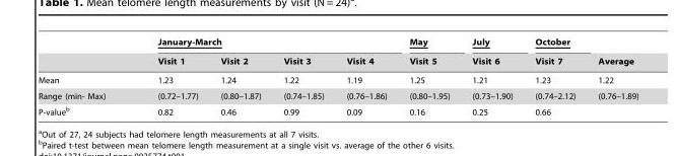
<table><thead><tr><td rowspan="2"></td><td colspan="4">January-March</td><td rowspan="2">May Visit 5</td><td rowspan="2">July Visit 6</td><td rowspan="2">October Visit 7</td><td rowspan="2">Average</td></tr><tr><td>Visit 1</td><td>Visit 2</td><td>Visit 3</td><td>Visit 4</td></tr></thead><tbody><tr><td>Mean</td><td>1.23</td><td>1.24</td><td>1.22</td><td>1.19</td><td>1.25</td><td>1.21</td><td>1.23</td><td>1.22</td></tr><tr><td>Range (min- Max)</td><td>(0.72–1.77)</td><td>(0.80–1.87)</td><td>(0.74–1.85)</td><td>(0.76–1.86)</td><td>(0.80–1.95)</td><td>(0.73–1.90)</td><td>(0.74–2.12)</td><td>(0.76–1.89)</td></tr><tr><td>P-value<sup>b</sup></td><td>0.82</td><td>0.46</td><td>0.99</td><td>0.09</td><td>0.16</td><td>0.25</td><td>0.66</td><td></td></tr></tbody></table>